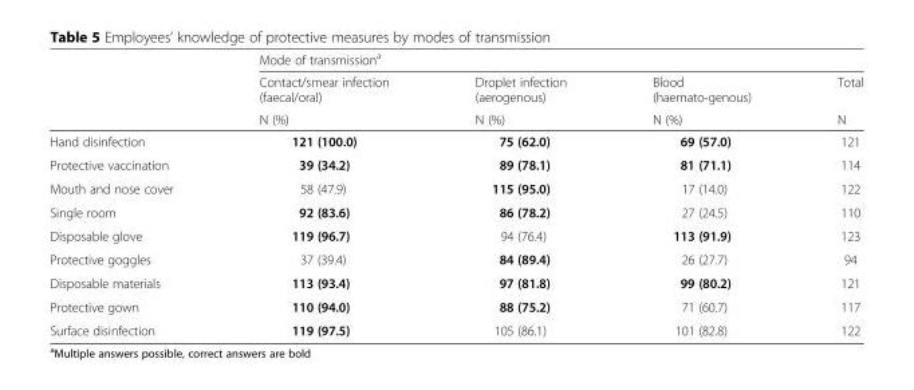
<table><thead><tr><td rowspan="3"></td><td colspan="4">Mode of transmission<sup>a</sup></td></tr><tr><td rowspan="2">Contact/smear infection (faecal/oral) N (%)</td><td rowspan="2">Droplet infection (aerogenous) N (%)</td><td rowspan="2">Blood (haemato-genous) N (%)</td><td rowspan="2">Total N</td></tr><tr></tr></thead><tbody><tr><td>Hand disinfection</td><td>121 (100.0)</td><td>75 (62.0)</td><td>69 (57.0)</td><td>121</td></tr><tr><td>Protective vaccination</td><td>39 (34.2)</td><td>89 (78.1)</td><td>81 (71.1)</td><td>114</td></tr><tr><td>Mouth and nose cover</td><td>58 (47.9)</td><td>115 (95.0)</td><td>17 (14.0)</td><td>122</td></tr><tr><td>Single room</td><td>92 (83.6)</td><td>86 (78.2)</td><td>27 (24.5)</td><td>110</td></tr><tr><td>Disposable glove</td><td>119 (96.7)</td><td>94 (76.4)</td><td>113 (91.9)</td><td>123</td></tr><tr><td>Protective goggles</td><td>37 (39.4)</td><td>84 (89.4)</td><td>26 (27.7)</td><td>94</td></tr><tr><td>Disposable materials</td><td>113 (93.4)</td><td>97 (81.8)</td><td>99 (80.2)</td><td>121</td></tr><tr><td>Protective gown</td><td>110 (94.0)</td><td>88 (75.2)</td><td>71 (60.7)</td><td>117</td></tr><tr><td>Surface disinfection</td><td>119 (97.5)</td><td>105 (86.1)</td><td>101 (82.8)</td><td>122</td></tr></tbody></table>